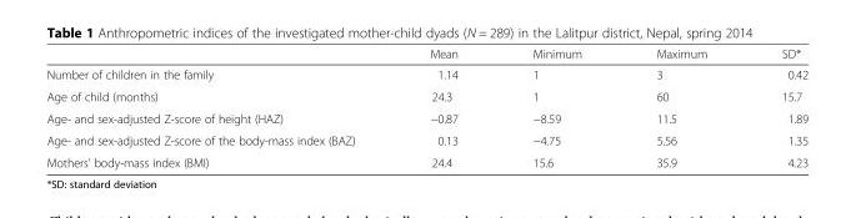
<table><thead><tr><td></td><td>Mean</td><td>Minimum</td><td>Maximum</td><td>SD*</td></tr></thead><tbody><tr><td>Number of children in the family</td><td>1.14</td><td>1</td><td>3</td><td>0.42</td></tr><tr><td>Age of child (months)</td><td>24.3</td><td>1</td><td>60</td><td>15.7</td></tr><tr><td>Age- and sex-adjusted Z-score of height (HAZ)</td><td>−0.87</td><td>−8.59</td><td>11.5</td><td>1.89</td></tr><tr><td>Age- and sex-adjusted Z-score of the body-mass index (BAZ)</td><td>0.13</td><td>−4.75</td><td>5.56</td><td>1.35</td></tr><tr><td>Mothers’ body-mass index (BMI)</td><td>24.4</td><td>15.6</td><td>35.9</td><td>4.23</td></tr></tbody></table>